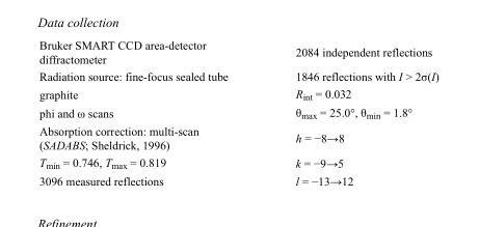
<table><tbody><tr><td>Bruker SMART CCD area-detector diffractometer</td><td>2084 independent reflections</td></tr><tr><td>Radiation source: fine-focus sealed tube</td><td>1846 reflections with I &gt; 2σ(I)</td></tr><tr><td>graphite</td><td>R<sub>int</sub> = 0.032</td></tr><tr><td>phi and ω scans</td><td>θ<sub>max</sub> = 25.0°, θ<sub>min</sub> = 1.8°</td></tr><tr><td>Absorption correction: multi-scan (SADABS; Sheldrick, 1996)</td><td>h = −8→8</td></tr><tr><td>T<sub>min</sub> = 0.746, T<sub>max</sub> = 0.819</td><td>k = −9→5</td></tr><tr><td>3096 measured reflections</td><td>l = −13→12</td></tr></tbody></table>